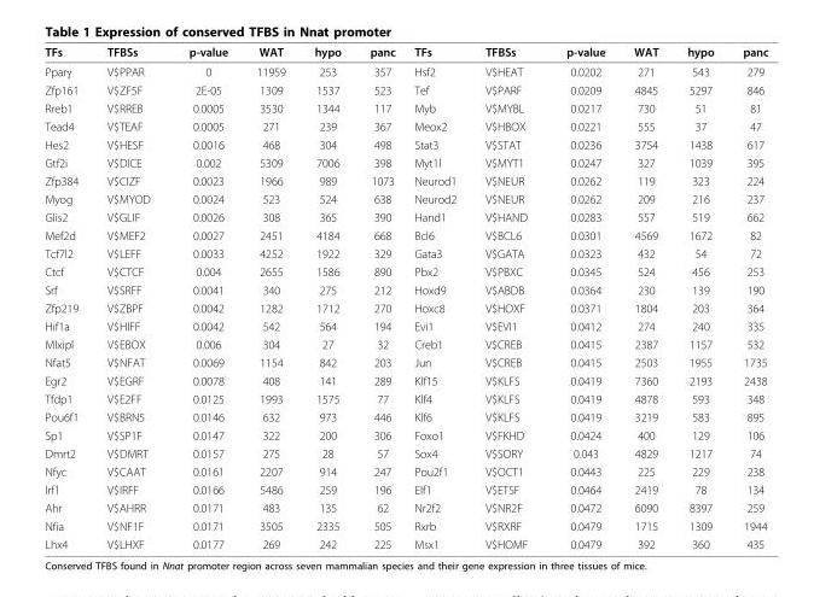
<table><thead><tr><td>TFs</td><td>TFBSs</td><td>p-value</td><td>WAT</td><td>hypo</td><td>panc</td><td>TFs</td><td>TFBSs</td><td>p-value</td><td>WAT</td><td>hypo</td><td>panc</td></tr></thead><tbody><tr><td>Pparγ</td><td>V$PPAR</td><td>0</td><td>11959</td><td>253</td><td>357</td><td>Hsf2</td><td>V$HEAT</td><td>0.0202</td><td>271</td><td>543</td><td>279</td></tr><tr><td>Zfp161</td><td>V$ZF5F</td><td>2E-05</td><td>1309</td><td>1537</td><td>523</td><td>Tef</td><td>V$PARF</td><td>0.0209</td><td>4845</td><td>5297</td><td>846</td></tr><tr><td>Rreb1</td><td>V$RREB</td><td>0.0005</td><td>3530</td><td>1344</td><td>117</td><td>Myb</td><td>V$MYBL</td><td>0.0217</td><td>730</td><td>51</td><td>81</td></tr><tr><td>Tead4</td><td>V$TEAF</td><td>0.0005</td><td>271</td><td>239</td><td>367</td><td>Meox2</td><td>V$HBOX</td><td>0.0221</td><td>555</td><td>37</td><td>47</td></tr><tr><td>Hes2</td><td>V$HESF</td><td>0.0016</td><td>468</td><td>304</td><td>498</td><td>Stat3</td><td>V$STAT</td><td>0.0236</td><td>3754</td><td>1438</td><td>617</td></tr><tr><td>Gtf2i</td><td>V$DICE</td><td>0.002</td><td>5309</td><td>7006</td><td>398</td><td>Myt1l</td><td>V$MYT1</td><td>0.0247</td><td>327</td><td>1039</td><td>395</td></tr><tr><td>Zfp384</td><td>V$CIZF</td><td>0.0023</td><td>1966</td><td>989</td><td>1073</td><td>Neurod1</td><td>V$NEUR</td><td>0.0262</td><td>119</td><td>323</td><td>224</td></tr><tr><td>Myog</td><td>V$MYOD</td><td>0.0024</td><td>523</td><td>524</td><td>638</td><td>Neurod2</td><td>V$NEUR</td><td>0.0262</td><td>209</td><td>216</td><td>237</td></tr><tr><td>Glis2</td><td>V$GLIF</td><td>0.0026</td><td>308</td><td>365</td><td>390</td><td>Hand1</td><td>V$HAND</td><td>0.0283</td><td>557</td><td>519</td><td>662</td></tr><tr><td>Mef2d</td><td>V$MEF2</td><td>0.0027</td><td>2451</td><td>4184</td><td>668</td><td>Bcl6</td><td>V$BCL6</td><td>0.0301</td><td>4569</td><td>1672</td><td>82</td></tr><tr><td>Tcf7l2</td><td>V$LEFF</td><td>0.0033</td><td>4252</td><td>1922</td><td>329</td><td>Gata3</td><td>V$GATA</td><td>0.0323</td><td>432</td><td>54</td><td>72</td></tr><tr><td>Ctcf</td><td>V$CTCF</td><td>0.004</td><td>2655</td><td>1586</td><td>890</td><td>Pbx2</td><td>V$PBXC</td><td>0.0345</td><td>524</td><td>456</td><td>253</td></tr><tr><td>Srf</td><td>V$SRFF</td><td>0.0041</td><td>340</td><td>275</td><td>212</td><td>Hoxd9</td><td>V$ABDB</td><td>0.0364</td><td>230</td><td>139</td><td>190</td></tr><tr><td>Zfp219</td><td>V$ZBPF</td><td>0.0042</td><td>1282</td><td>1712</td><td>270</td><td>Hoxc8</td><td>V$HOXF</td><td>0.0371</td><td>1804</td><td>203</td><td>364</td></tr><tr><td>Hif1a</td><td>V$HIFF</td><td>0.0042</td><td>542</td><td>564</td><td>194</td><td>Evi1</td><td>V$EVI1</td><td>0.0412</td><td>274</td><td>240</td><td>335</td></tr><tr><td>Mlxipl</td><td>V$EBOX</td><td>0.006</td><td>304</td><td>27</td><td>32</td><td>Creb1</td><td>V$CREB</td><td>0.0415</td><td>2387</td><td>1157</td><td>532</td></tr><tr><td>Nfat5</td><td>V$NFAT</td><td>0.0069</td><td>1154</td><td>842</td><td>203</td><td>Jun</td><td>V$CREB</td><td>0.0415</td><td>2503</td><td>1955</td><td>1735</td></tr><tr><td>Egr2</td><td>V$EGRF</td><td>0.0078</td><td>408</td><td>141</td><td>289</td><td>Klf15</td><td>V$KLFS</td><td>0.0419</td><td>7360</td><td>2193</td><td>2438</td></tr><tr><td>Tfdp1</td><td>V$E2FF</td><td>0.0125</td><td>1993</td><td>1575</td><td>77</td><td>Klf4</td><td>V$KLFS</td><td>0.0419</td><td>4878</td><td>593</td><td>348</td></tr><tr><td>Pou6f1</td><td>V$BRN5</td><td>0.0146</td><td>632</td><td>973</td><td>446</td><td>Klf6</td><td>V$KLFS</td><td>0.0419</td><td>3219</td><td>583</td><td>895</td></tr><tr><td>Sp1</td><td>V$SP1F</td><td>0.0147</td><td>322</td><td>200</td><td>306</td><td>Foxo1</td><td>V$FKHD</td><td>0.0424</td><td>400</td><td>129</td><td>106</td></tr><tr><td>Dmrt2</td><td>V$DMRT</td><td>0.0157</td><td>275</td><td>28</td><td>57</td><td>Sox4</td><td>V$SORY</td><td>0.043</td><td>4829</td><td>1217</td><td>74</td></tr><tr><td>Nfyc</td><td>V$CAAT</td><td>0.0161</td><td>2207</td><td>914</td><td>247</td><td>Pou2f1</td><td>V$OCT1</td><td>0.0443</td><td>225</td><td>229</td><td>238</td></tr><tr><td>Irf1</td><td>V$IRFF</td><td>0.0166</td><td>5486</td><td>259</td><td>196</td><td>Elf1</td><td>V$ETSF</td><td>0.0464</td><td>2419</td><td>78</td><td>134</td></tr><tr><td>Ahr</td><td>V$AHRR</td><td>0.0171</td><td>483</td><td>135</td><td>62</td><td>Nr2f2</td><td>V$NR2F</td><td>0.0472</td><td>6090</td><td>8397</td><td>259</td></tr><tr><td>Nfia</td><td>V$NF1F</td><td>0.0171</td><td>3505</td><td>2335</td><td>505</td><td>Rxrb</td><td>V$RXRF</td><td>0.0479</td><td>1715</td><td>1309</td><td>1944</td></tr><tr><td>Lhx4</td><td>V$LHXF</td><td>0.0177</td><td>269</td><td>242</td><td>225</td><td>Msx1</td><td>V$HOMF</td><td>0.0479</td><td>392</td><td>360</td><td>435</td></tr></tbody></table>